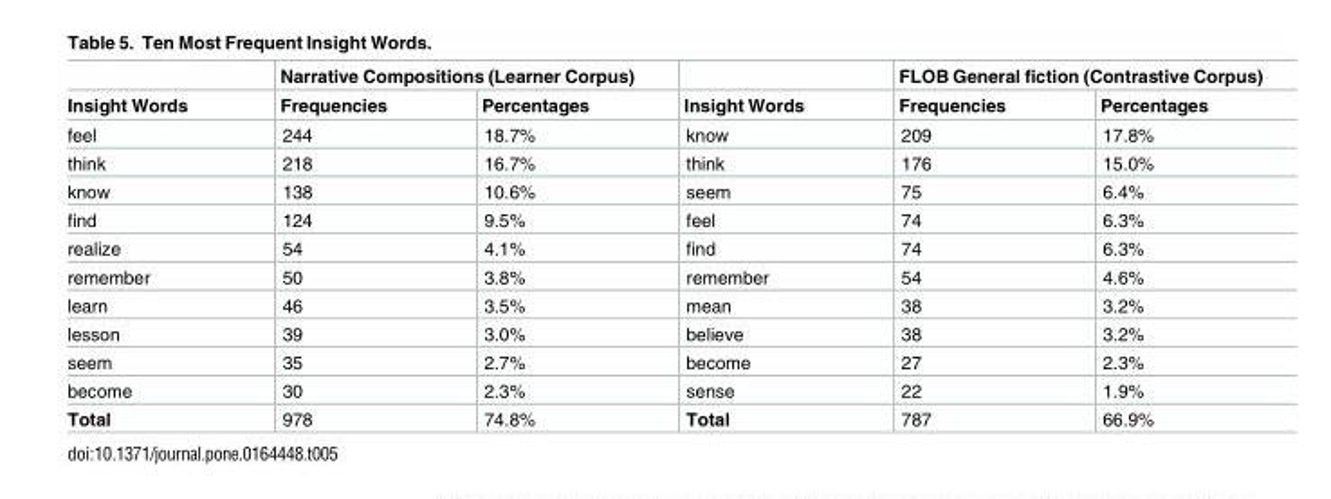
<table><thead><tr><td rowspan="2">Insight Words</td><td colspan="2">Narrative Compositions (Learner Corpus)</td><td rowspan="2">Insight Words</td><td colspan="2">FLOB General fiction (Contrastive Corpus)</td></tr><tr><td>Frequencies</td><td>Percentages</td><td>Frequencies</td><td>Percentages</td></tr></thead><tbody><tr><td>feel</td><td>244</td><td>18.7%</td><td>know</td><td>209</td><td>17.8%</td></tr><tr><td>think</td><td>218</td><td>16.7%</td><td>think</td><td>176</td><td>15.0%</td></tr><tr><td>know</td><td>138</td><td>10.6%</td><td>seem</td><td>75</td><td>6.4%</td></tr><tr><td>find</td><td>124</td><td>9.5%</td><td>feel</td><td>74</td><td>6.3%</td></tr><tr><td>realize</td><td>54</td><td>4.1%</td><td>find</td><td>74</td><td>6.3%</td></tr><tr><td>remember</td><td>50</td><td>3.8%</td><td>remember</td><td>54</td><td>4.6%</td></tr><tr><td>learn</td><td>46</td><td>3.5%</td><td>mean</td><td>38</td><td>3.2%</td></tr><tr><td>lesson</td><td>39</td><td>3.0%</td><td>believe</td><td>38</td><td>3.2%</td></tr><tr><td>seem</td><td>35</td><td>2.7%</td><td>become</td><td>27</td><td>2.3%</td></tr><tr><td>become</td><td>30</td><td>2.3%</td><td>sense</td><td>22</td><td>1.9%</td></tr><tr><td>Total</td><td>978</td><td>74.8%</td><td>Total</td><td>787</td><td>66.9%</td></tr></tbody></table>